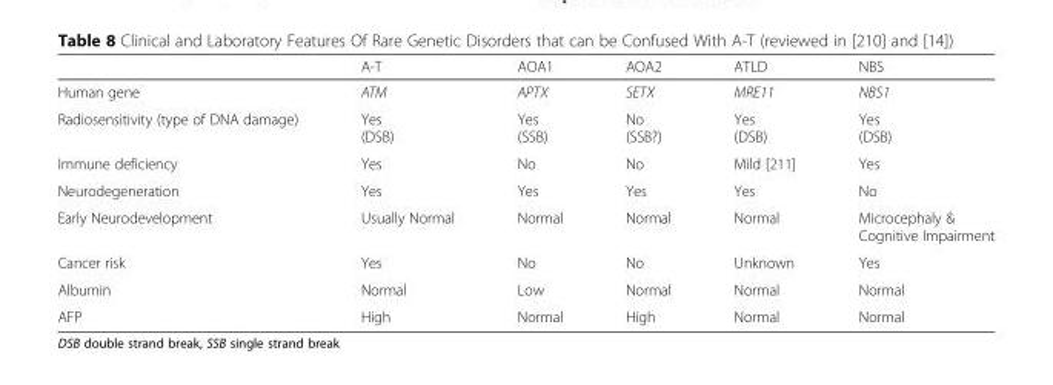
<table><thead><tr><td></td><td>A-T</td><td>AOA1</td><td>AOA2</td><td>ATLD</td><td>NBS</td></tr></thead><tbody><tr><td>Human gene</td><td>ATM</td><td>APTX</td><td>SETX</td><td>MRE11</td><td>NBS1</td></tr><tr><td>Radiosensitivity (type of DNA damage)</td><td>Yes (DSB)</td><td>Yes (SSB)</td><td>No (SSB?)</td><td>Yes (DSB)</td><td>Yes (DSB)</td></tr><tr><td>Immune deficiency</td><td>Yes</td><td>No</td><td>No</td><td>Mild [211]</td><td>Yes</td></tr><tr><td>Neurodegeneration</td><td>Yes</td><td>Yes</td><td>Yes</td><td>Yes</td><td>No</td></tr><tr><td>Early Neurodevelopment</td><td>Usually Normal</td><td>Normal</td><td>Normal</td><td>Normal</td><td>Microcephaly &amp; Cognitive Impairment</td></tr><tr><td>Cancer risk</td><td>Yes</td><td>No</td><td>No</td><td>Unknown</td><td>Yes</td></tr><tr><td>Albumin</td><td>Normal</td><td>Low</td><td>Normal</td><td>Normal</td><td>Normal</td></tr><tr><td>AFP</td><td>High</td><td>Normal</td><td>High</td><td>Normal</td><td>Normal</td></tr></tbody></table>